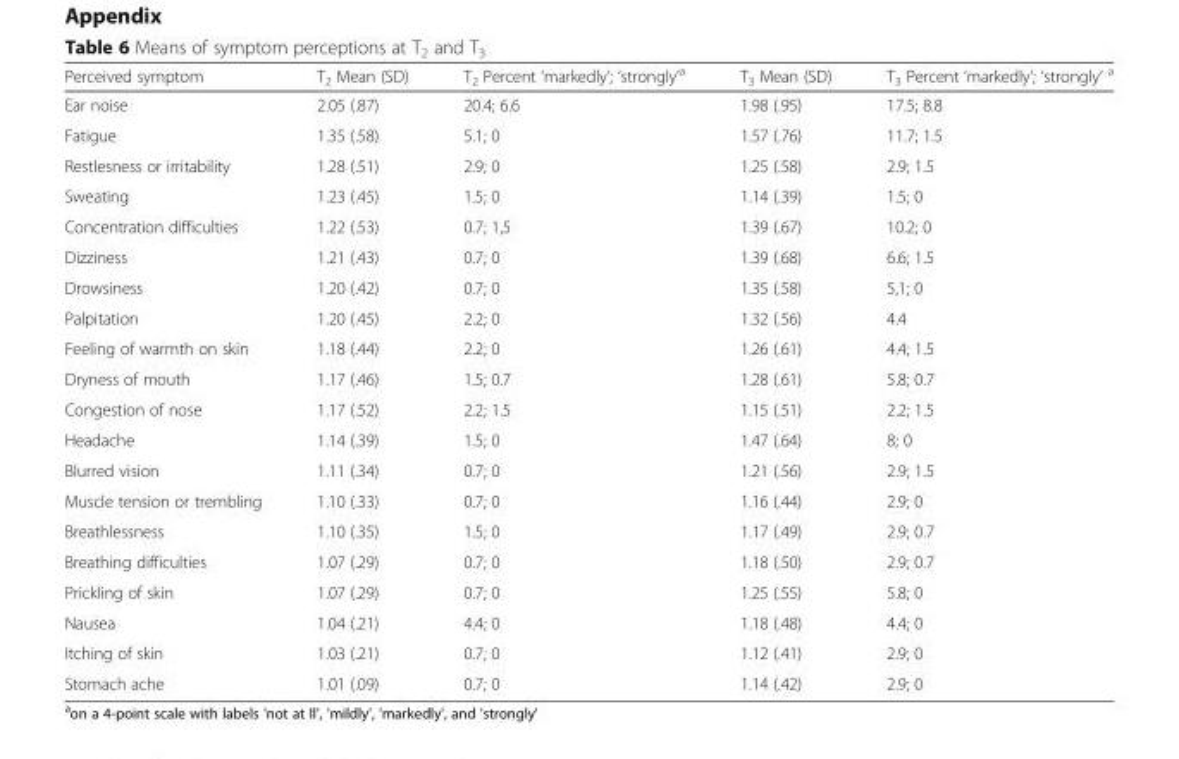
<table><thead><tr><td>Perceived symptom</td><td>T<sub>2</sub> Mean (SD)</td><td>T<sub>2</sub> Percent ‘markedly’; ‘strongly’<sup>a</sup></td><td>T<sub>3</sub> Mean (SD)</td><td>T<sub>3</sub> Percent ‘markedly’; ‘strongly’ <sup>a</sup></td></tr></thead><tbody><tr><td>Ear noise</td><td>2.05 (.87)</td><td>20.4; 6.6</td><td>1.98 (.95)</td><td>17.5; 8.8</td></tr><tr><td>Fatigue</td><td>1.35 (.58)</td><td>5.1; 0</td><td>1.57 (.76)</td><td>11.7; 1.5</td></tr><tr><td>Restlesness or irritability</td><td>1.28 (.51)</td><td>2.9; 0</td><td>1.25 (.58)</td><td>2.9; 1.5</td></tr><tr><td>Sweating</td><td>1.23 (.45)</td><td>1.5; 0</td><td>1.14 (.39)</td><td>1.5; 0</td></tr><tr><td>Concentration difficulties</td><td>1.22 (.53)</td><td>0.7; 1,5</td><td>1.39 (.67)</td><td>10.2; 0</td></tr><tr><td>Dizziness</td><td>1.21 (.43)</td><td>0.7; 0</td><td>1.39 (.68)</td><td>6.6; 1.5</td></tr><tr><td>Drowsiness</td><td>1.20 (.42)</td><td>0.7; 0</td><td>1.35 (.58)</td><td>5,1; 0</td></tr><tr><td>Palpitation</td><td>1.20 (.45)</td><td>2.2; 0</td><td>1.32 (.56)</td><td>4.4</td></tr><tr><td>Feeling of warmth on skin</td><td>1.18 (.44)</td><td>2.2; 0</td><td>1.26 (.61)</td><td>4.4; 1.5</td></tr><tr><td>Dryness of mouth</td><td>1.17 (.46)</td><td>1.5; 0.7</td><td>1.28 (.61)</td><td>5.8; 0.7</td></tr><tr><td>Congestion of nose</td><td>1.17 (.52)</td><td>2.2; 1.5</td><td>1.15 (.51)</td><td>2.2; 1.5</td></tr><tr><td>Headache</td><td>1.14 (.39)</td><td>1.5; 0</td><td>1.47 (.64)</td><td>8; 0</td></tr><tr><td>Blurred vision</td><td>1.11 (.34)</td><td>0.7; 0</td><td>1.21 (.56)</td><td>2.9; 1.5</td></tr><tr><td>Muscle tension or trembling</td><td>1.10 (.33)</td><td>0.7; 0</td><td>1.16 (.44)</td><td>2.9; 0</td></tr><tr><td>Breathlessness</td><td>1.10 (.35)</td><td>1.5; 0</td><td>1.17 (.49)</td><td>2.9; 0.7</td></tr><tr><td>Breathing difficulties</td><td>1.07 (.29)</td><td>0.7; 0</td><td>1.18 (.50)</td><td>2.9; 0.7</td></tr><tr><td>Prickling of skin</td><td>1.07 (.29)</td><td>0.7; 0</td><td>1.25 (.55)</td><td>5.8; 0</td></tr><tr><td>Nausea</td><td>1.04 (.21)</td><td>4.4; 0</td><td>1.18 (.48)</td><td>4.4; 0</td></tr><tr><td>Itching of skin</td><td>1.03 (.21)</td><td>0.7; 0</td><td>1.12 (.41)</td><td>2.9; 0</td></tr><tr><td>Stomach ache</td><td>1.01 (.09)</td><td>0.7; 0</td><td>1.14 (.42)</td><td>2.9; 0</td></tr></tbody></table>